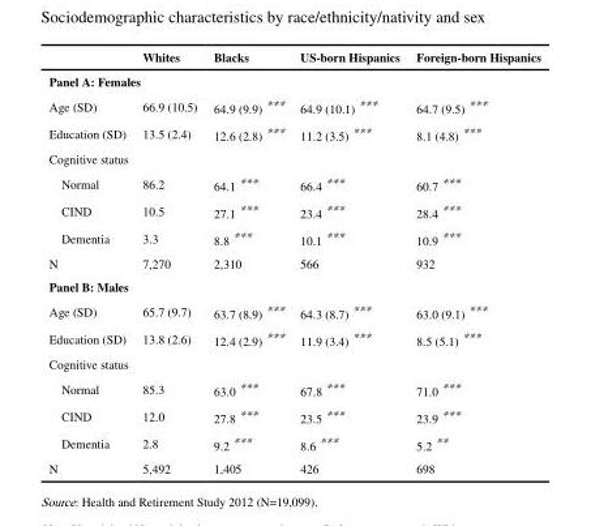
<table><thead><tr><td></td><td>Whites</td><td>Blacks</td><td>US-born Hispanics</td><td>Foreign-born Hispanics</td></tr></thead><tbody><tr><td colspan="5">Panel A: Females</td></tr><tr><td>Age (SD)</td><td>66.9 (10.5)</td><td>64.9 (9.9) ***</td><td>64.9 (10.1) ***</td><td>64.7 (9.5) ***</td></tr><tr><td>Education (SD)</td><td>13.5 (2.4)</td><td>12.6 (2.8) ***</td><td>11.2 (3.5) ***</td><td>8.1 (4.8) ***</td></tr><tr><td colspan="5">Cognitive status</td></tr><tr><td>Normal</td><td>86.2</td><td>64.1 ***</td><td>66.4 ***</td><td>60.7 ***</td></tr><tr><td>CIND</td><td>10.5</td><td>27.1 ***</td><td>23.4 ***</td><td>28.4 ***</td></tr><tr><td>Dementia</td><td>3.3</td><td>8.8 ***</td><td>10.1 ***</td><td>10.9 ***</td></tr><tr><td>N</td><td>7,270</td><td>2,310</td><td>566</td><td>932</td></tr><tr><td colspan="5">Panel B: Males</td></tr><tr><td>Age (SD)</td><td>65.7 (9.7)</td><td>63.7 (8.9) ***</td><td>64.3 (8.7) ***</td><td>63.0 (9.1) ***</td></tr><tr><td>Education (SD)</td><td>13.8 (2.6)</td><td>12.4 (2.9) ***</td><td>11.9 (3.4) ***</td><td>8.5 (5.1) ***</td></tr><tr><td colspan="5">Cognitive status</td></tr><tr><td>Normal</td><td>85.3</td><td>63.0 ***</td><td>67.8 ***</td><td>71.0 ***</td></tr><tr><td>CIND</td><td>12.0</td><td>27.8 ***</td><td>23.5 ***</td><td>23.9 ***</td></tr><tr><td>Dementia</td><td>2.8</td><td>9.2 ***</td><td>8.6 ***</td><td>5.2 **</td></tr><tr><td>N</td><td>5,492</td><td>1,405</td><td>426</td><td>698</td></tr></tbody></table>